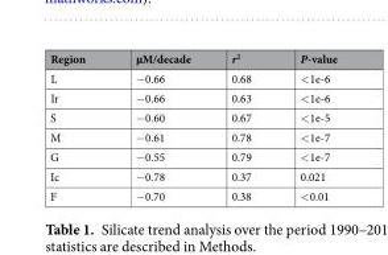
<table><thead><tr><td>Region</td><td>µM/decade</td><td>r<sup>2</sup></td><td>P-value</td></tr></thead><tbody><tr><td>L</td><td>−0.66</td><td>0.68</td><td>&lt;1e-6</td></tr><tr><td>Ir</td><td>−0.66</td><td>0.63</td><td>&lt;1e-6</td></tr><tr><td>S</td><td>−0.60</td><td>0.67</td><td>&lt;1e-5</td></tr><tr><td>M</td><td>−0.61</td><td>0.78</td><td>&lt;1e-7</td></tr><tr><td>G</td><td>−0.55</td><td>0.79</td><td>&lt;1e-7</td></tr><tr><td>Ic</td><td>−0.78</td><td>0.37</td><td>0.021</td></tr><tr><td>F</td><td>−0.70</td><td>0.38</td><td>&lt;0.01</td></tr></tbody></table>